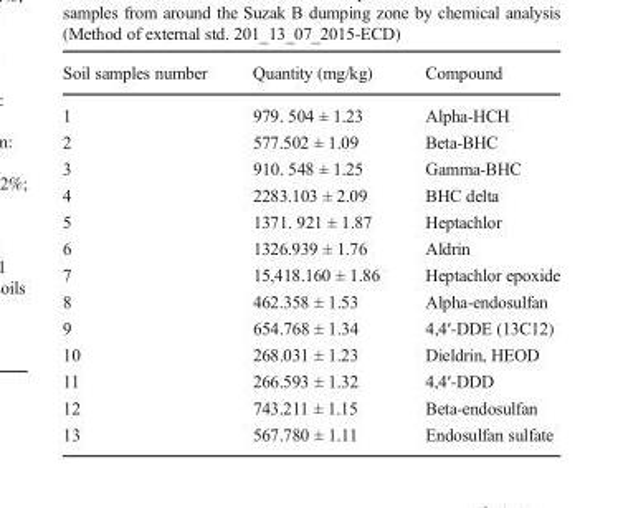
<table><thead><tr><td>Soil samples number</td><td>Quantity (mg/kg)</td><td>Compound</td></tr></thead><tbody><tr><td>1</td><td>979. 504 ± 1.23</td><td>Alpha-HCH</td></tr><tr><td>2</td><td>577.502 ± 1.09</td><td>Beta-BHC</td></tr><tr><td>3</td><td>910. 548 ± 1.25</td><td>Gamma-BHC</td></tr><tr><td>4</td><td>2283.103 ± 2.09</td><td>BHC delta</td></tr><tr><td>5</td><td>1371. 921 ± 1.87</td><td>Heptachlor</td></tr><tr><td>6</td><td>1326.939 ± 1.76</td><td>Aldrin</td></tr><tr><td>7</td><td>15,418.160 ± 1.86</td><td>Heptachlor epoxide</td></tr><tr><td>8</td><td>462.358 ± 1.53</td><td>Alpha-endosulfan</td></tr><tr><td>9</td><td>654.768 ± 1.34</td><td>4,4′-DDE (13C12)</td></tr><tr><td>10</td><td>268.031 ± 1.23</td><td>Dieldrin, HEOD</td></tr><tr><td>11</td><td>266.593 ± 1.32</td><td>4,4′-DDD</td></tr><tr><td>12</td><td>743.211 ± 1.15</td><td>Beta-endosulfan</td></tr><tr><td>13</td><td>567.780 ± 1.11</td><td>Endosulfan sulfate</td></tr></tbody></table>